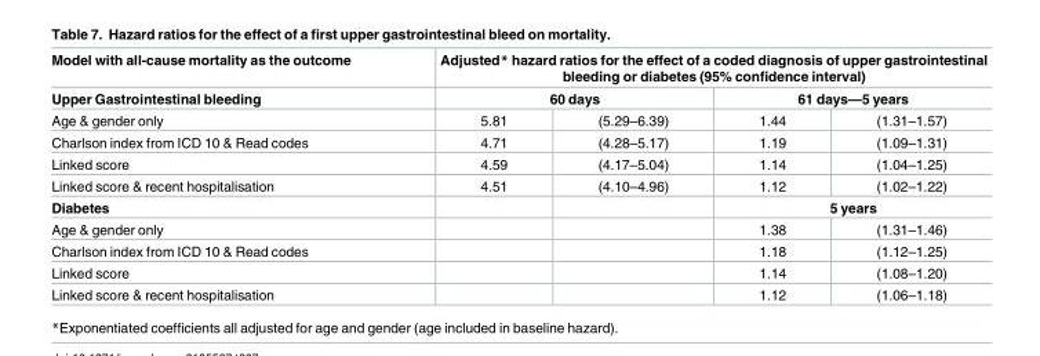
<table><thead><tr><td rowspan="3">Model with all-cause mortality as the outcome Upper Gastrointestinal bleeding Age &amp; gender only</td><td colspan="4">Adjusted* hazard ratios for the effect of a coded diagnosis of upper gastrointestinal bleeding or diabetes (95% confidence interval)</td></tr><tr><td colspan="2">60 days</td><td colspan="2">61 days—5 years</td></tr><tr><td>5.81</td><td>(5.29–6.39)</td><td>1.44</td><td>(1.31–1.57)</td></tr></thead><tbody><tr><td>Charlson index from ICD 10 &amp; Read codes</td><td>4.71</td><td>(4.28–5.17)</td><td>1.19</td><td>(1.09–1.31)</td></tr><tr><td>Linked score</td><td>4.59</td><td>(4.17–5.04)</td><td>1.14</td><td>(1.04–1.25)</td></tr><tr><td>Linked score &amp; recent hospitalisation</td><td>4.51</td><td>(4.10–4.96)</td><td>1.12</td><td>(1.02–1.22)</td></tr><tr><td>Diabetes</td><td></td><td></td><td colspan="2">5 years</td></tr><tr><td>Age &amp; gender only</td><td></td><td></td><td>1.38</td><td>(1.31–1.46)</td></tr><tr><td>Charlson index from ICD 10 &amp; Read codes</td><td></td><td></td><td>1.18</td><td>(1.12–1.25)</td></tr><tr><td>Linked score</td><td></td><td></td><td>1.14</td><td>(1.08–1.20)</td></tr><tr><td>Linked score &amp; recent hospitalisation</td><td></td><td></td><td>1.12</td><td>(1.06–1.18)</td></tr></tbody></table>